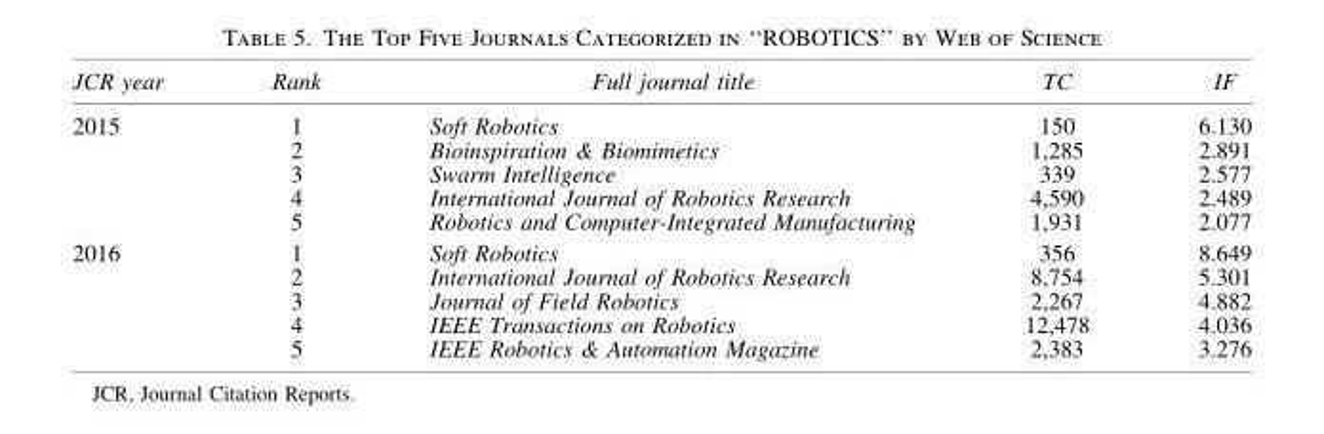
<table><thead><tr><td>JCR year</td><td>Rank</td><td>Full journal title</td><td>TC</td><td>IF</td></tr></thead><tbody><tr><td rowspan="5">2015</td><td>1</td><td>Soft Robotics</td><td>150</td><td>6.130</td></tr><tr><td>2</td><td>Bioinspiration &amp; Biomimetics</td><td>1,285</td><td>2.891</td></tr><tr><td>3</td><td>Swarm Intelligence</td><td>339</td><td>2.577</td></tr><tr><td>4</td><td>International Journal of Robotics Research</td><td>4,590</td><td>2.489</td></tr><tr><td>5</td><td>Robotics and Computer-Integrated Manufacturing</td><td>1,931</td><td>2.077</td></tr><tr><td rowspan="5">2016</td><td>1</td><td>Soft Robotics</td><td>356</td><td>8.649</td></tr><tr><td>2</td><td>International Journal of Robotics Research</td><td>8,754</td><td>5.301</td></tr><tr><td>3</td><td>Journal of Field Robotics</td><td>2,267</td><td>4.882</td></tr><tr><td>4</td><td>IEEE Transactions on Robotics</td><td>12,478</td><td>4.036</td></tr><tr><td>5</td><td>IEEE Robotics &amp; Automation Magazine</td><td>2,383</td><td>3.276</td></tr></tbody></table>